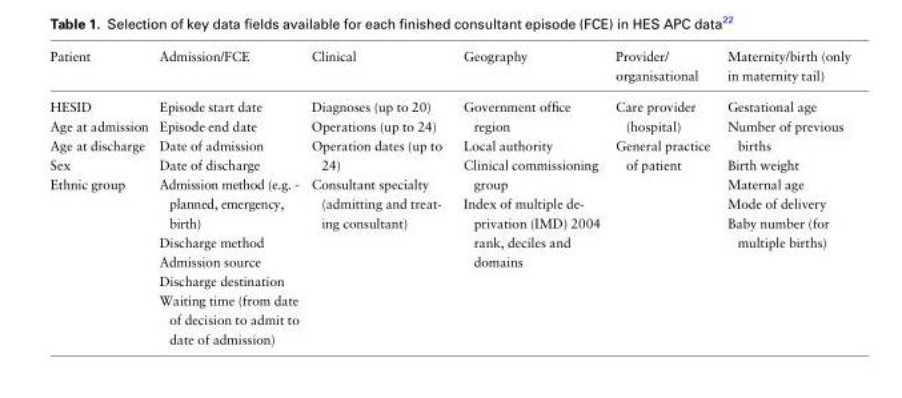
<table><thead><tr><td>Patient</td><td>Admission/FCE</td><td>Clinical</td><td>Geography</td><td>Provider/ organisational</td><td>Maternity/birth (only in maternity tail)</td></tr></thead><tbody><tr><td>HESID Age at admission Age at discharge Sex Ethnic group</td><td>Episode start date Episode end date Date of admission Date of discharge Admission method (e.g. - planned, emergency, birth) Discharge method Admission source Discharge destination Waiting time (from date of decision to admit to date of admission)</td><td>Diagnoses (up to 20) Operations (up to 24) Operation dates (up to 24) Consultant specialty (admitting and treat- ing consultant)</td><td>Government office region Local authority Clinical commissioning group Index of multiple de- privation (IMD) 2004 rank, deciles and domains</td><td>Care provider (hospital) General practice of patient</td><td>Gestational age Number of previous births Birth weight Maternal age Mode of delivery Baby number (for multiple births)</td></tr></tbody></table>